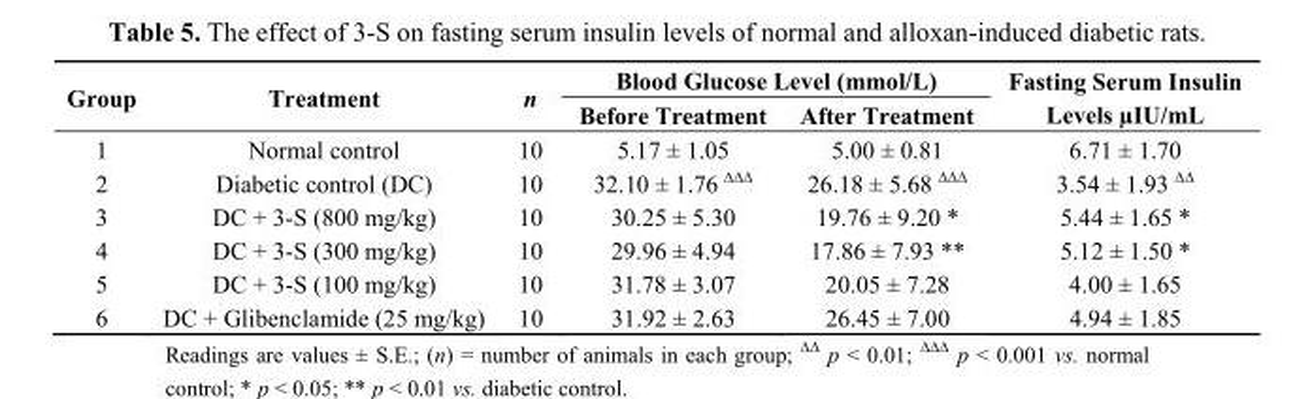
<table><thead><tr><td rowspan="2">Group</td><td rowspan="2">Treatment</td><td rowspan="2">n</td><td colspan="2">Blood Glucose Level (mmol/L)</td><td rowspan="2">Fasting Serum Insulin Levels µIU/mL</td></tr><tr><td>Before Treatment</td><td>After Treatment</td></tr></thead><tbody><tr><td>1</td><td>Normal control</td><td>10</td><td>5.17 ± 1.05</td><td>5.00 ± 0.81</td><td>6.71 ± 1.70</td></tr><tr><td>2</td><td>Diabetic control (DC)</td><td>10</td><td>32.10 ± 1.76 <sup>∆∆∆</sup></td><td>26.18 ± 5.68 <sup>∆∆∆</sup></td><td>3.54 ± 1.93 <sup>∆∆</sup></td></tr><tr><td>3</td><td>DC + 3-S (800 mg/kg)</td><td>10</td><td>30.25 ± 5.30</td><td>19.76 ± 9.20 *</td><td>5.44 ± 1.65 *</td></tr><tr><td>4</td><td>DC + 3-S (300 mg/kg)</td><td>10</td><td>29.96 ± 4.94</td><td>17.86 ± 7.93 **</td><td>5.12 ± 1.50 *</td></tr><tr><td>5</td><td>DC + 3-S (100 mg/kg)</td><td>10</td><td>31.78 ± 3.07</td><td>20.05 ± 7.28</td><td>4.00 ± 1.65</td></tr><tr><td>6</td><td>DC + Glibenclamide (25 mg/kg)</td><td>10</td><td>31.92 ± 2.63</td><td>26.45 ± 7.00</td><td>4.94 ± 1.85</td></tr></tbody></table>